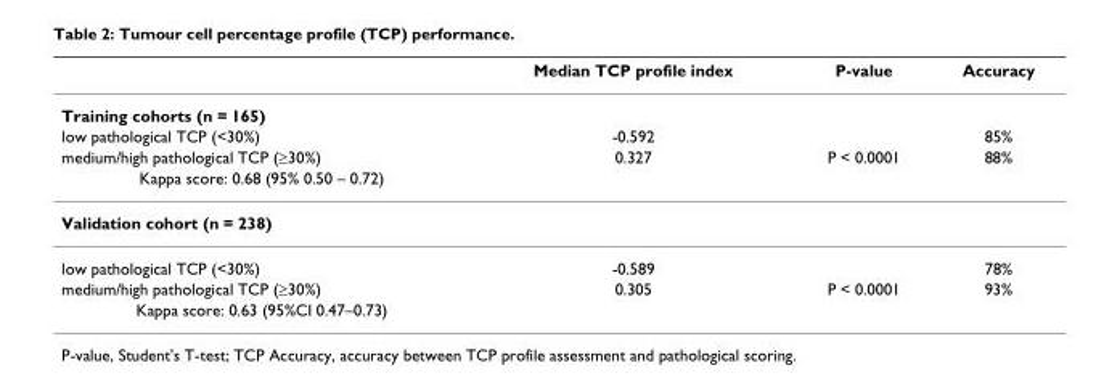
<table><thead><tr><td></td><td>Median TCP profile index</td><td>P-value</td><td>Accuracy</td></tr></thead><tbody><tr><td colspan="4">Training cohorts (n = 165)</td></tr><tr><td>low pathological TCP (&lt;30%)</td><td>-0.592</td><td></td><td>85%</td></tr><tr><td>medium/high pathological TCP (≥30%)</td><td>0.327</td><td>P &lt; 0.0001</td><td>88%</td></tr><tr><td colspan="4">Kappa score: 0.68 (95% 0.50 – 0.72)</td></tr><tr><td colspan="4">Validation cohort (n = 238)</td></tr><tr><td>low pathological TCP (&lt;30%)</td><td>-0.589</td><td></td><td>78%</td></tr><tr><td>medium/high pathological TCP (≥30%)</td><td>0.305</td><td>P &lt; 0.0001</td><td>93%</td></tr><tr><td>Kappa score: 0.63 (95%CI 0.47–0.73)</td><td></td><td></td><td></td></tr></tbody></table>